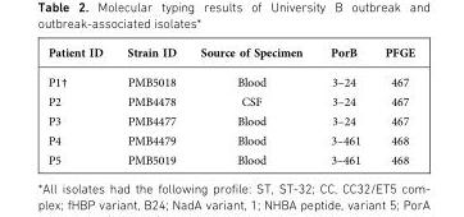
<table><thead><tr><td>Patient ID</td><td>Strain ID</td><td>Source of Specimen</td><td>PorB</td><td>PFGE</td></tr></thead><tbody><tr><td>P1†</td><td>PMB5018</td><td>Blood</td><td>3–24</td><td>467</td></tr><tr><td>P2</td><td>PMB4478</td><td>CSF</td><td>3–24</td><td>467</td></tr><tr><td>P3</td><td>PMB4477</td><td>Blood</td><td>3–24</td><td>467</td></tr><tr><td>P4</td><td>PMB4479</td><td>Blood</td><td>3–461</td><td>468</td></tr><tr><td>P5</td><td>PMB5019</td><td>Blood</td><td>3–461</td><td>468</td></tr></tbody></table>